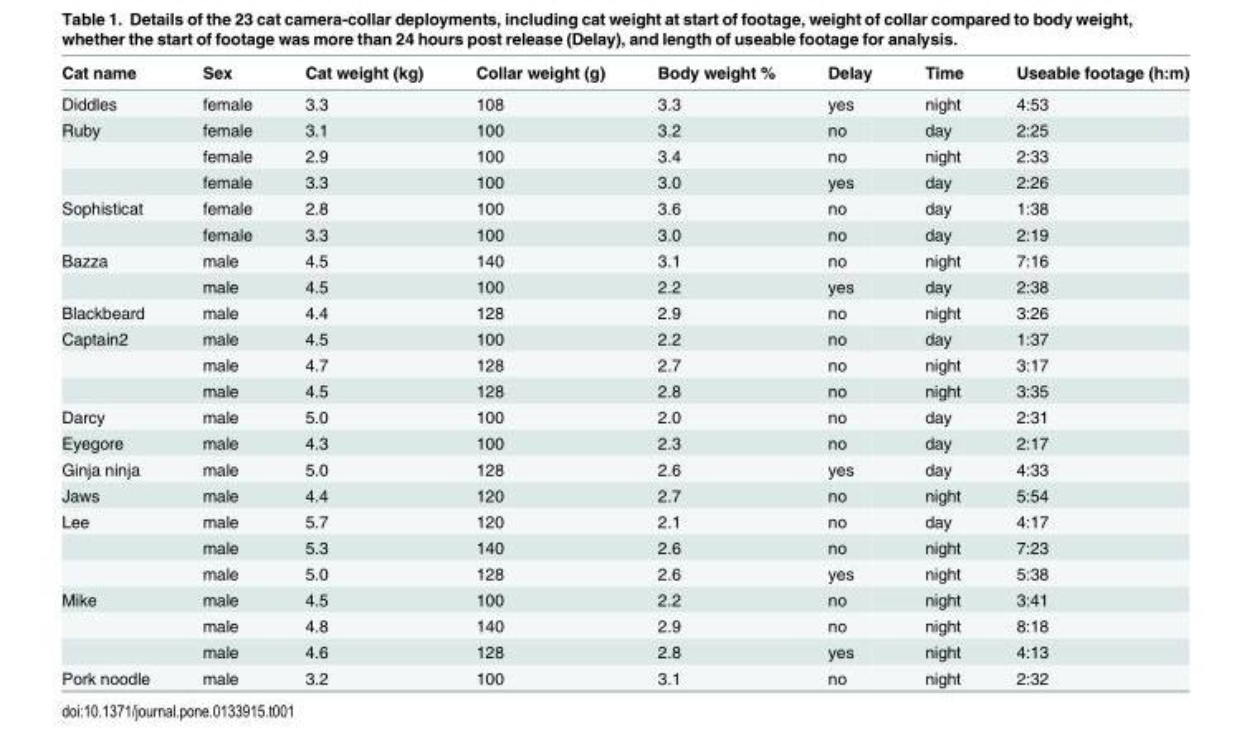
<table><thead><tr><td>Cat name</td><td>Sex</td><td>Cat weight (kg)</td><td>Collar weight (g)</td><td>Body weight %</td><td>Delay</td><td>Time</td><td>Useable footage (h:m)</td></tr></thead><tbody><tr><td>Diddles</td><td>female</td><td>3.3</td><td>108</td><td>3.3</td><td>yes</td><td>night</td><td>4:53</td></tr><tr><td rowspan="3">Ruby</td><td>female</td><td>3.1</td><td>100</td><td>3.2</td><td>no</td><td>day</td><td>2:25</td></tr><tr><td>female</td><td>2.9</td><td>100</td><td>3.4</td><td>no</td><td>night</td><td>2:33</td></tr><tr><td>female</td><td>3.3</td><td>100</td><td>3.0</td><td>yes</td><td>day</td><td>2:26</td></tr><tr><td rowspan="2">Sophisticat</td><td>female</td><td>2.8</td><td>100</td><td>3.6</td><td>no</td><td>day</td><td>1:38</td></tr><tr><td>female</td><td>3.3</td><td>100</td><td>3.0</td><td>no</td><td>day</td><td>2:19</td></tr><tr><td rowspan="2">Bazza</td><td>male</td><td>4.5</td><td>140</td><td>3.1</td><td>no</td><td>night</td><td>7:16</td></tr><tr><td>male</td><td>4.5</td><td>100</td><td>2.2</td><td>yes</td><td>day</td><td>2:38</td></tr><tr><td>Blackbeard</td><td>male</td><td>4.4</td><td>128</td><td>2.9</td><td>no</td><td>night</td><td>3:26</td></tr><tr><td rowspan="3">Captain2</td><td>male</td><td>4.5</td><td>100</td><td>2.2</td><td>no</td><td>day</td><td>1:37</td></tr><tr><td>male</td><td>4.7</td><td>128</td><td>2.7</td><td>no</td><td>night</td><td>3:17</td></tr><tr><td>male</td><td>4.5</td><td>128</td><td>2.8</td><td>no</td><td>night</td><td>3:35</td></tr><tr><td>Darcy</td><td>male</td><td>5.0</td><td>100</td><td>2.0</td><td>no</td><td>day</td><td>2:31</td></tr><tr><td>Eyegore</td><td>male</td><td>4.3</td><td>100</td><td>2.3</td><td>no</td><td>day</td><td>2:17</td></tr><tr><td>Ginja ninja</td><td>male</td><td>5.0</td><td>128</td><td>2.6</td><td>yes</td><td>day</td><td>4:33</td></tr><tr><td>Jaws</td><td>male</td><td>4.4</td><td>120</td><td>2.7</td><td>no</td><td>night</td><td>5:54</td></tr><tr><td rowspan="3">Lee</td><td>male</td><td>5.7</td><td>120</td><td>2.1</td><td>no</td><td>day</td><td>4:17</td></tr><tr><td>male</td><td>5.3</td><td>140</td><td>2.6</td><td>no</td><td>night</td><td>7:23</td></tr><tr><td>male</td><td>5.0</td><td>128</td><td>2.6</td><td>yes</td><td>night</td><td>5:38</td></tr><tr><td rowspan="3">Mike</td><td>male</td><td>4.5</td><td>100</td><td>2.2</td><td>no</td><td>night</td><td>3:41</td></tr><tr><td>male</td><td>4.8</td><td>140</td><td>2.9</td><td>no</td><td>night</td><td>8:18</td></tr><tr><td>male</td><td>4.6</td><td>128</td><td>2.8</td><td>yes</td><td>night</td><td>4:13</td></tr><tr><td>Pork noodle</td><td>male</td><td>3.2</td><td>100</td><td>3.1</td><td>no</td><td>night</td><td>2:32</td></tr></tbody></table>